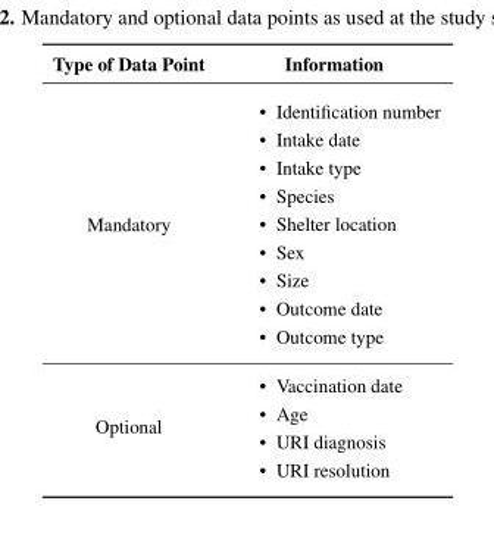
<table><thead><tr><td>Type of Data Point</td><td>Information</td></tr></thead><tbody><tr><td rowspan="9">Mandatory</td><td>• Identification number</td></tr><tr><td>• Intake date</td></tr><tr><td>• Intake type</td></tr><tr><td>• Species</td></tr><tr><td>• Shelter location</td></tr><tr><td>• Sex</td></tr><tr><td>• Size</td></tr><tr><td>• Outcome date</td></tr><tr><td>• Outcome type</td></tr><tr><td rowspan="4">Optional</td><td>• Vaccination date</td></tr><tr><td>• Age</td></tr><tr><td>• URI diagnosis</td></tr><tr><td>• URI resolution</td></tr></tbody></table>